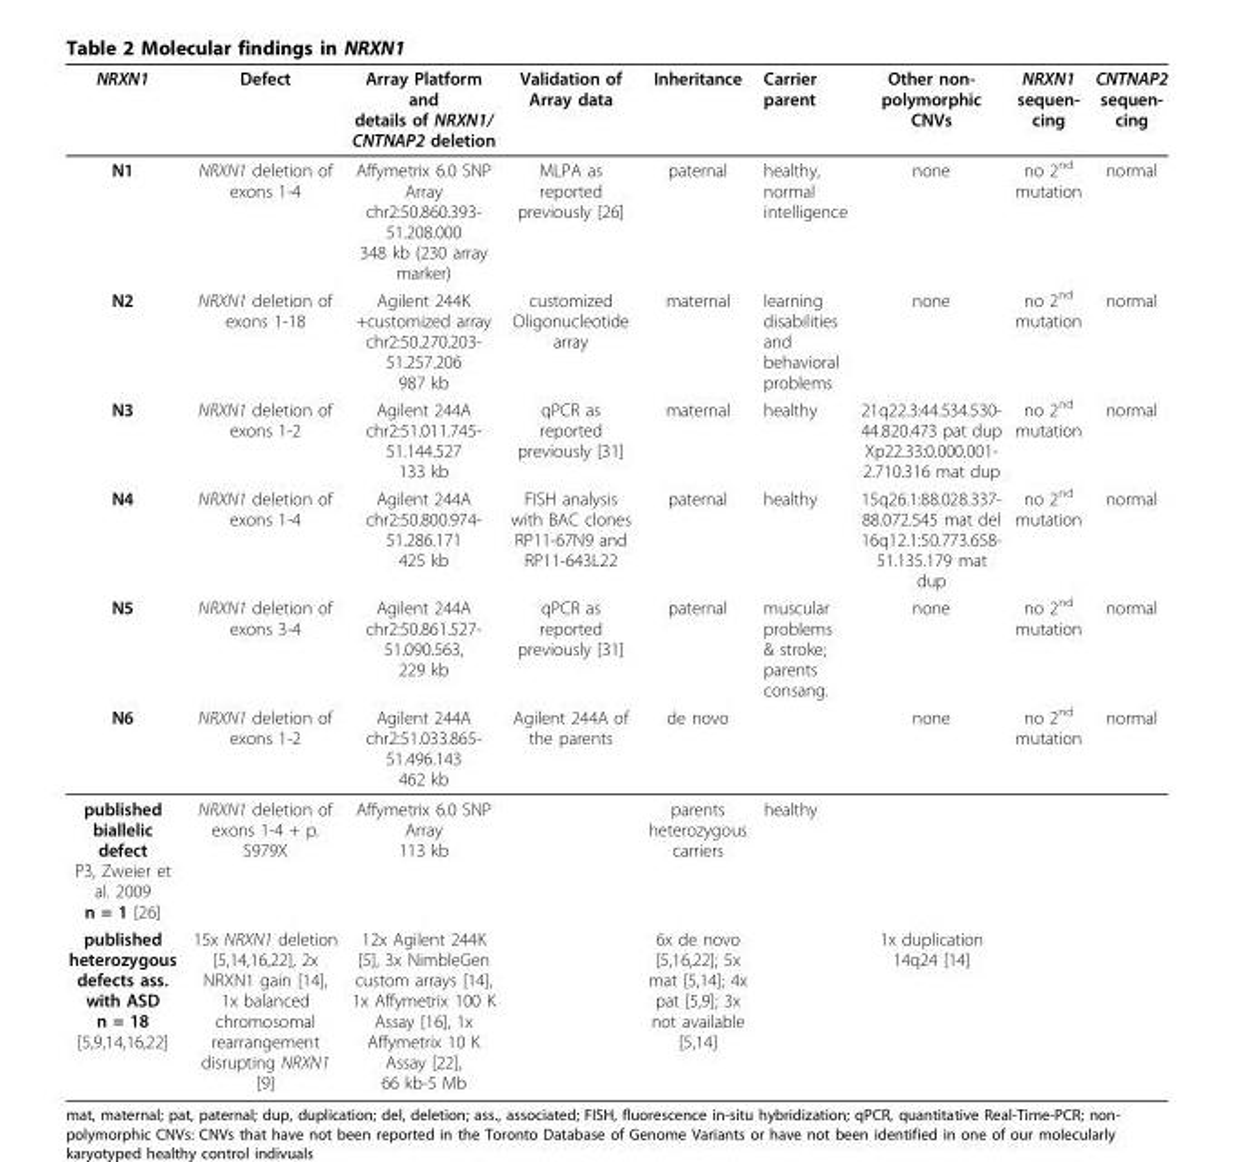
<table><thead><tr><td>NRXN1</td><td>Defect</td><td>Array Platform and details of NRXN1/ CNTNAP2 deletion</td><td>Validation of Array data</td><td>Inheritance</td><td>Carrier parent</td><td>Other non- polymorphic CNVs</td><td>NRXN1 sequen- cing</td><td>CNTNAP2 sequen- cing</td></tr></thead><tbody><tr><td>N1</td><td>NRXN1 deletion of exons 1-4</td><td>Affymetrix 6.0 SNP Array chr2:50.860.393- 51.208.000 348 kb (230 array marker)</td><td>MLPA as reported previously [26]</td><td>paternal</td><td>healthy, normal intelligence</td><td>none</td><td>no 2<sup>nd</sup> mutation</td><td>normal</td></tr><tr><td>N2</td><td>NRXN1 deletion of exons 1-18</td><td>Agilent 244K +customized array chr2:50.270.203- 51.257.206 987 kb</td><td>customized Oligonucleotide array</td><td>maternal</td><td>learning disabilities and behavioral problems</td><td>none</td><td>no 2<sup>nd</sup> mutation</td><td>normal</td></tr><tr><td>N3</td><td>NRXN1 deletion of exons 1-2</td><td>Agilent 244A chr2:51.011.745- 51.144.527 133 kb</td><td>qPCR as reported previously [31]</td><td>maternal</td><td>healthy</td><td>21q22.3:44.534.530- 44.820.473 pat dup Xp22.33:0.000.001- 2.710.316 mat dup</td><td>no 2<sup>nd</sup> mutation</td><td>normal</td></tr><tr><td>N4</td><td>NRXN1 deletion of exons 1-4</td><td>Agilent 244A chr2:50.800.974- 51.286.171 425 kb</td><td>FISH analysis with BAC clones RP11-67N9 and RP11-643L22</td><td>paternal</td><td>healthy</td><td>15q26.1:88.028.337- 88.072.545 mat del 16q12.1:50.773.658- 51.135.179 mat dup</td><td>no 2<sup>nd</sup> mutation</td><td>normal</td></tr><tr><td>N5</td><td>NRXN1 deletion of exons 3-4</td><td>Agilent 244A chr2:50.861.527- 51.090.563, 229 kb</td><td>qPCR as reported previously [31]</td><td>paternal</td><td>muscular problems &amp; stroke; parents consang.</td><td>none</td><td>no 2<sup>nd</sup> mutation</td><td>normal</td></tr><tr><td>N6</td><td>NRXN1 deletion of exons 1-2</td><td>Agilent 244A chr2:51.033.865- 51.496.143 462 kb</td><td>Agilent 244A of the parents</td><td>de novo</td><td></td><td>none</td><td>no 2<sup>nd</sup> mutation</td><td>normal</td></tr><tr><td>published biallelic defect P3, Zweier et al. 2009 n = 1 [26]</td><td>NRXN1 deletion of exons 1-4 + p. S979X</td><td>Affymetrix 6.0 SNP Array 113 kb</td><td></td><td>parents heterozygous carriers</td><td>healthy</td><td></td><td></td><td></td></tr><tr><td>published heterozygous defects ass. with ASD n = 18 [5,9,14,16,22]</td><td>15x NRXN1 deletion [5,14,16,22], 2x NRXN1 gain [14], 1x balanced chromosomal rearrangement disrupting NRXN1 [9]</td><td>12x Agilent 244K [5], 3x NimbleGen custom arrays [14], 1x Affymetrix 100 K Assay [16], 1x Affymetrix 10 K Assay [22], 66 kb-5 Mb</td><td></td><td>6x de novo [5,16,22]; 5x mat [5,14]; 4x pat [5,9]; 3x not available [5,14]</td><td></td><td>1x duplication 14q24 [14]</td><td></td><td></td></tr></tbody></table>